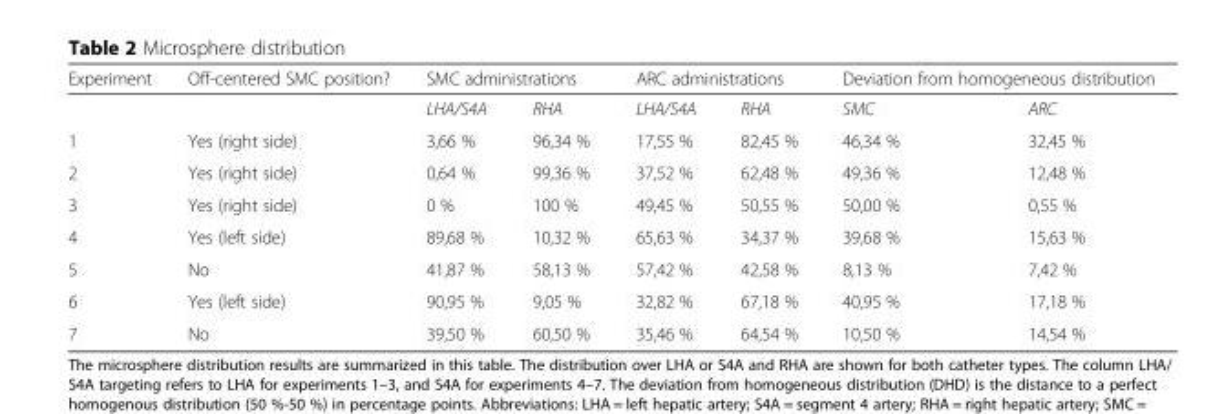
<table><thead><tr><td rowspan="2">Experiment</td><td rowspan="2">Off-centered SMC position?</td><td colspan="2">SMC administrations</td><td colspan="2">ARC administrations</td><td colspan="2">Deviation from homogeneous distribution</td></tr><tr><td>LHA/S4A</td><td>RHA</td><td>LHA/S4A</td><td>RHA</td><td>SMC</td><td>ARC</td></tr></thead><tbody><tr><td>1</td><td>Yes (right side)</td><td>3,66 %</td><td>96,34 %</td><td>17,55 %</td><td>82,45 %</td><td>46,34 %</td><td>32,45 %</td></tr><tr><td>2</td><td>Yes (right side)</td><td>0,64 %</td><td>99,36 %</td><td>37,52 %</td><td>62,48 %</td><td>49,36 %</td><td>12,48 %</td></tr><tr><td>3</td><td>Yes (right side)</td><td>0 %</td><td>100 %</td><td>49,45 %</td><td>50,55 %</td><td>50,00 %</td><td>0,55 %</td></tr><tr><td>4</td><td>Yes (left side)</td><td>89,68 %</td><td>10,32 %</td><td>65,63 %</td><td>34,37 %</td><td>39,68 %</td><td>15,63 %</td></tr><tr><td>5</td><td>No</td><td>41,87 %</td><td>58,13 %</td><td>57,42 %</td><td>42,58 %</td><td>8,13 %</td><td>7,42 %</td></tr><tr><td>6</td><td>Yes (left side)</td><td>90,95 %</td><td>9,05 %</td><td>32,82 %</td><td>67,18 %</td><td>40,95 %</td><td>17,18 %</td></tr><tr><td>7</td><td>No</td><td>39,50 %</td><td>60,50 %</td><td>35,46 %</td><td>64,54 %</td><td>10,50 %</td><td>14,54 %</td></tr></tbody></table>